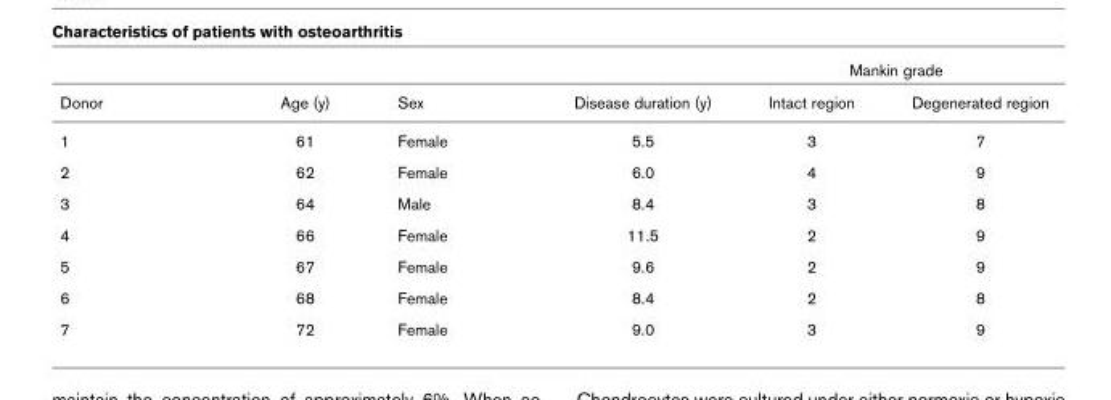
<table><thead><tr><td rowspan="2">Donor</td><td rowspan="2">Age (y)</td><td rowspan="2">Sex</td><td rowspan="2">Disease duration (y)</td><td colspan="2">Mankin grade</td></tr><tr><td>Intact region</td><td>Degenerated region</td></tr></thead><tbody><tr><td>1</td><td>61</td><td>Female</td><td>5.5</td><td>3</td><td>7</td></tr><tr><td>2</td><td>62</td><td>Female</td><td>6.0</td><td>4</td><td>9</td></tr><tr><td>3</td><td>64</td><td>Male</td><td>8.4</td><td>3</td><td>8</td></tr><tr><td>4</td><td>66</td><td>Female</td><td>11.5</td><td>2</td><td>9</td></tr><tr><td>5</td><td>67</td><td>Female</td><td>9.6</td><td>2</td><td>9</td></tr><tr><td>6</td><td>68</td><td>Female</td><td>8.4</td><td>2</td><td>8</td></tr><tr><td>7</td><td>72</td><td>Female</td><td>9.0</td><td>3</td><td>9</td></tr></tbody></table>